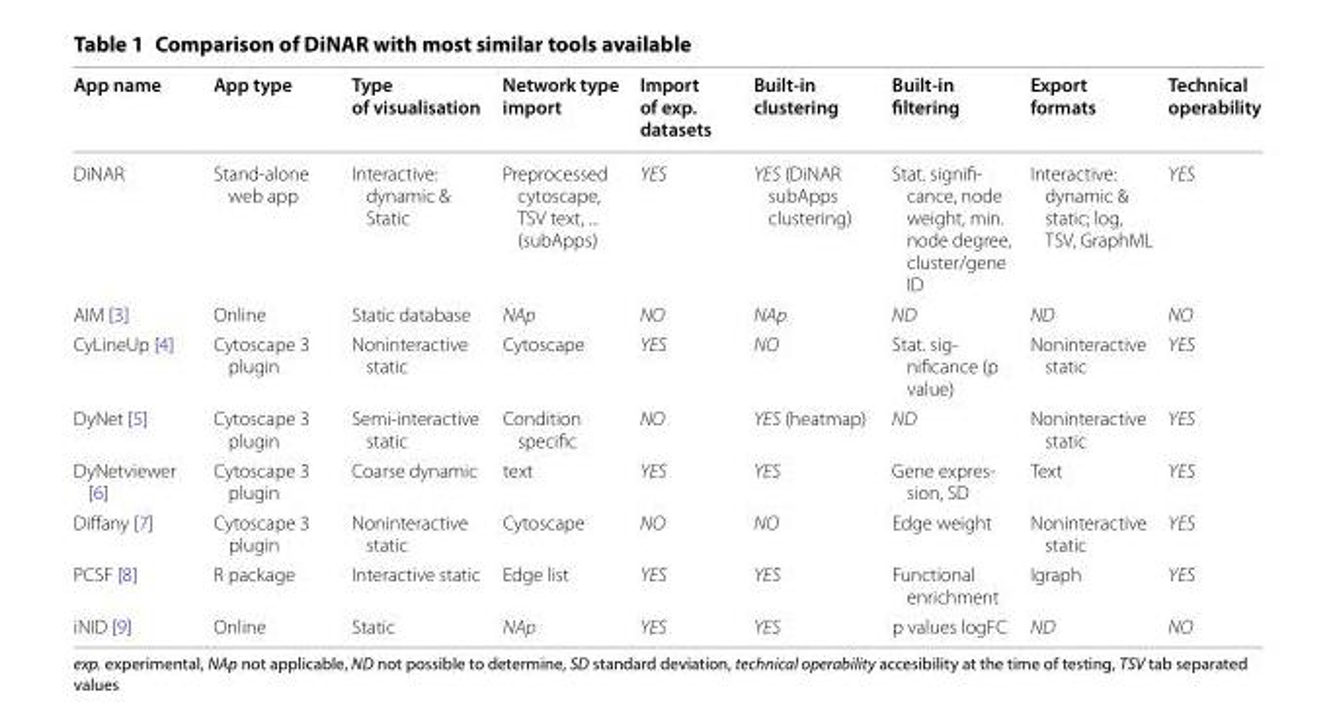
<table><thead><tr><td>App name</td><td>App type</td><td>Type of visualisation</td><td>Network type import</td><td>Import of exp. datasets</td><td>Built-in clustering</td><td>Built-in filtering</td><td>Export formats</td><td>Technical operability</td></tr></thead><tbody><tr><td>DiNAR</td><td>Stand-alone web app</td><td>Interactive: dynamic &amp; Static</td><td>Preprocessed cytoscape, TSV text, ... (subApps)</td><td>YES</td><td>YES (DiNAR subApps clustering)</td><td>Stat. signifi- cance, node weight, min. node degree, cluster/gene ID</td><td>Interactive: dynamic &amp; static; log, TSV, GraphML</td><td>YES</td></tr><tr><td>AIM [3]</td><td>Online</td><td>Static database</td><td>NAp</td><td>NO</td><td>NAp</td><td>ND</td><td>ND</td><td>NO</td></tr><tr><td>CyLineUp [4]</td><td>Cytoscape 3 plugin</td><td>Noninteractive static</td><td>Cytoscape</td><td>YES</td><td>NO</td><td>Stat. sig- nificance (p value)</td><td>Noninteractive static</td><td>YES</td></tr><tr><td>DyNet [5]</td><td>Cytoscape 3 plugin</td><td>Semi-interactive static</td><td>Condition specific</td><td>NO</td><td>YES (heatmap)</td><td>ND</td><td>Noninteractive static</td><td>YES</td></tr><tr><td>DyNetviewer [6]</td><td>Cytoscape 3 plugin</td><td>Coarse dynamic</td><td>text</td><td>YES</td><td>YES</td><td>Gene expres- sion, SD</td><td>Text</td><td>YES</td></tr><tr><td>Diffany [7]</td><td>Cytoscape 3 plugin</td><td>Noninteractive static</td><td>Cytoscape</td><td>NO</td><td>NO</td><td>Edge weight</td><td>Noninteractive static</td><td>YES</td></tr><tr><td>PCSF [8]</td><td>R package</td><td>Interactive static</td><td>Edge list</td><td>YES</td><td>YES</td><td>Functional enrichment</td><td>Igraph</td><td>YES</td></tr><tr><td>iNID [9]</td><td>Online</td><td>Static</td><td>NAp</td><td>YES</td><td>YES</td><td>p values logFC</td><td>ND</td><td>NO</td></tr></tbody></table>